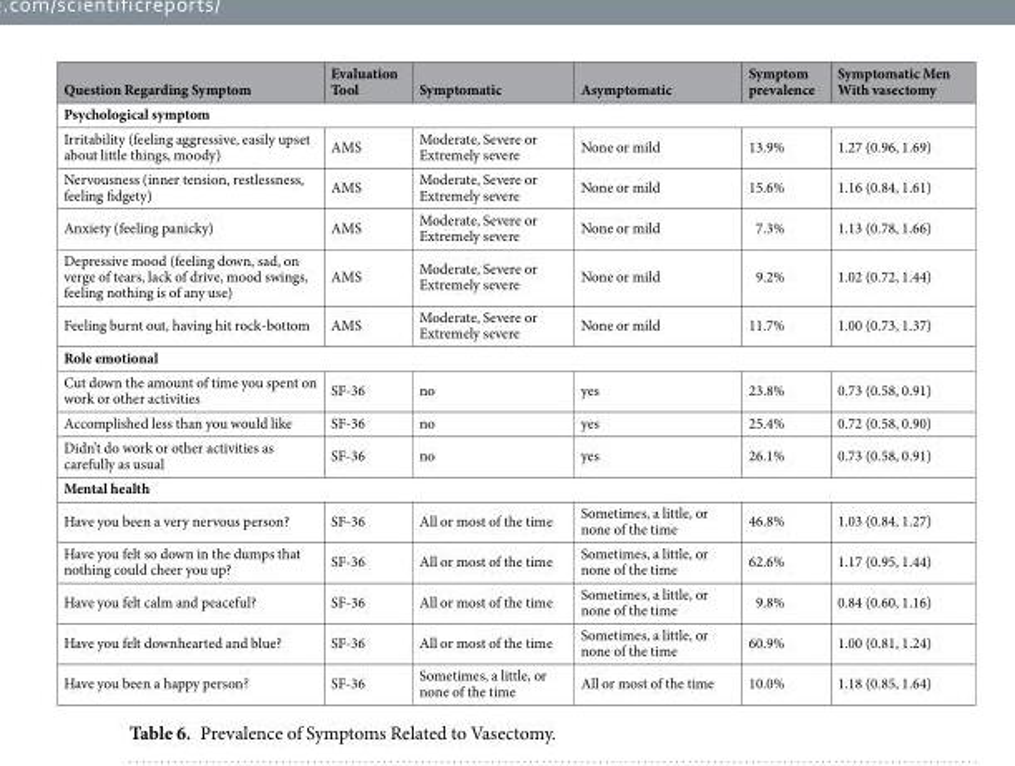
<table><thead><tr><td>Question Regarding Symptom</td><td>Evaluation Tool</td><td>Symptomatic</td><td>Asymptomatic</td><td>Symptom prevalence</td><td>Symptomatic Men With vasectomy</td></tr></thead><tbody><tr><td colspan="6">Psychological symptom</td></tr><tr><td>Irritability (feeling aggressive, easily upset about little things, moody)</td><td>AMS</td><td>Moderate, Severe or Extremely severe</td><td>None or mild</td><td>13.9%</td><td>1.27 (0.96, 1.69)</td></tr><tr><td>Nervousness (inner tension, restlessness, feeling fidgety)</td><td>AMS</td><td>Moderate, Severe or Extremely severe</td><td>None or mild</td><td>15.6%</td><td>1.16 (0.84, 1.61)</td></tr><tr><td>Anxiety (feeling panicky)</td><td>AMS</td><td>Moderate, Severe or Extremely severe</td><td>None or mild</td><td>7.3%</td><td>1.13 (0.78, 1.66)</td></tr><tr><td>Depressive mood (feeling down, sad, on verge of tears, lack of drive, mood swings, feeling nothing is of any use)</td><td>AMS</td><td>Moderate, Severe or Extremely severe</td><td>None or mild</td><td>9.2%</td><td>1.02 (0.72, 1.44)</td></tr><tr><td>Feeling burnt out, having hit rock-bottom</td><td>AMS</td><td>Moderate, Severe or Extremely severe</td><td>None or mild</td><td>11.7%</td><td>1.00 (0.73, 1.37)</td></tr><tr><td colspan="6">Role emotional</td></tr><tr><td>Cut down the amount of time you spent on work or other activities</td><td>SF-36</td><td>no</td><td>yes</td><td>23.8%</td><td>0.73 (0.58, 0.91)</td></tr><tr><td>Accomplished less than you would like</td><td>SF-36</td><td>no</td><td>yes</td><td>25.4%</td><td>0.72 (0.58, 0.90)</td></tr><tr><td>Didn’t do work or other activities as carefully as usual</td><td>SF-36</td><td>no</td><td>yes</td><td>26.1%</td><td>0.73 (0.58, 0.91)</td></tr><tr><td colspan="6">Mental health</td></tr><tr><td>Have you been a very nervous person?</td><td>SF-36</td><td>All or most of the time</td><td>Sometimes, a little, or none of the time</td><td>46.8%</td><td>1.03 (0.84, 1.27)</td></tr><tr><td>Have you felt so down in the dumps that nothing could cheer you up?</td><td>SF-36</td><td>All or most of the time</td><td>Sometimes, a little, or none of the time</td><td>62.6%</td><td>1.17 (0.95, 1.44)</td></tr><tr><td>Have you felt calm and peaceful?</td><td>SF-36</td><td>All or most of the time</td><td>Sometimes, a little, or none of the time</td><td>9.8%</td><td>0.84 (0.60, 1.16)</td></tr><tr><td>Have you felt downhearted and blue?</td><td>SF-36</td><td>All or most of the time</td><td>Sometimes, a little, or none of the time</td><td>60.9%</td><td>1.00 (0.81, 1.24)</td></tr><tr><td>Have you been a happy person?</td><td>SF-36</td><td>Sometimes, a little, or none of the time</td><td>All or most of the time</td><td>10.0%</td><td>1.18 (0.85, 1.64)</td></tr></tbody></table>